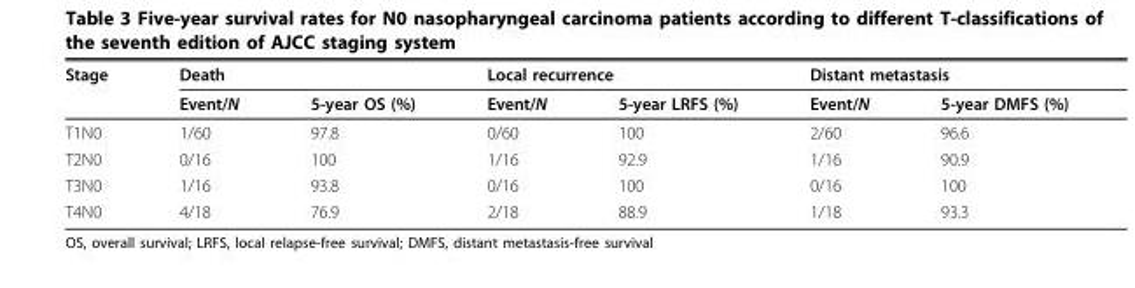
<table><tbody><tr><td rowspan="2">Stage</td><td colspan="2">Death</td><td colspan="2">Local recurrence</td><td colspan="2">Distant metastasis</td></tr><tr><td>Event/N</td><td>5-year OS (%)</td><td>Event/N</td><td>5-year LRFS (%)</td><td>Event/N</td><td>5-year DMFS (%)</td></tr><tr><td>T1N0</td><td>1/60</td><td>97.8</td><td>0/60</td><td>100</td><td>2/60</td><td>96.6</td></tr><tr><td>T2N0</td><td>0/16</td><td>100</td><td>1/16</td><td>92.9</td><td>1/16</td><td>90.9</td></tr><tr><td>T3N0</td><td>1/16</td><td>93.8</td><td>0/16</td><td>100</td><td>0/16</td><td>100</td></tr><tr><td>T4N0</td><td>4/18</td><td>76.9</td><td>2/18</td><td>88.9</td><td>1/18</td><td>93.3</td></tr></tbody></table>